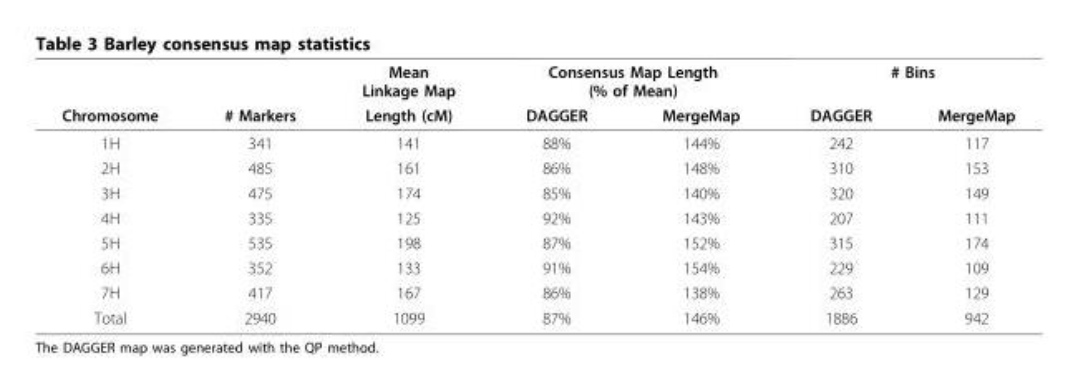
<table><thead><tr><td rowspan="2">Chromosome</td><td rowspan="2"># Markers</td><td rowspan="2">Mean Linkage Map Length (cM)</td><td colspan="2">Consensus Map Length (% of Mean)</td><td colspan="2"># Bins</td></tr><tr><td>DAGGER</td><td>MergeMap</td><td>DAGGER</td><td>MergeMap</td></tr></thead><tbody><tr><td>1H</td><td>341</td><td>141</td><td>88%</td><td>144%</td><td>242</td><td>117</td></tr><tr><td>2H</td><td>485</td><td>161</td><td>86%</td><td>148%</td><td>310</td><td>153</td></tr><tr><td>3H</td><td>475</td><td>174</td><td>85%</td><td>140%</td><td>320</td><td>149</td></tr><tr><td>4H</td><td>335</td><td>125</td><td>92%</td><td>143%</td><td>207</td><td>111</td></tr><tr><td>5H</td><td>535</td><td>198</td><td>87%</td><td>152%</td><td>315</td><td>174</td></tr><tr><td>6H</td><td>352</td><td>133</td><td>91%</td><td>154%</td><td>229</td><td>109</td></tr><tr><td>7H</td><td>417</td><td>167</td><td>86%</td><td>138%</td><td>263</td><td>129</td></tr><tr><td>Total</td><td>2940</td><td>1099</td><td>87%</td><td>146%</td><td>1886</td><td>942</td></tr></tbody></table>